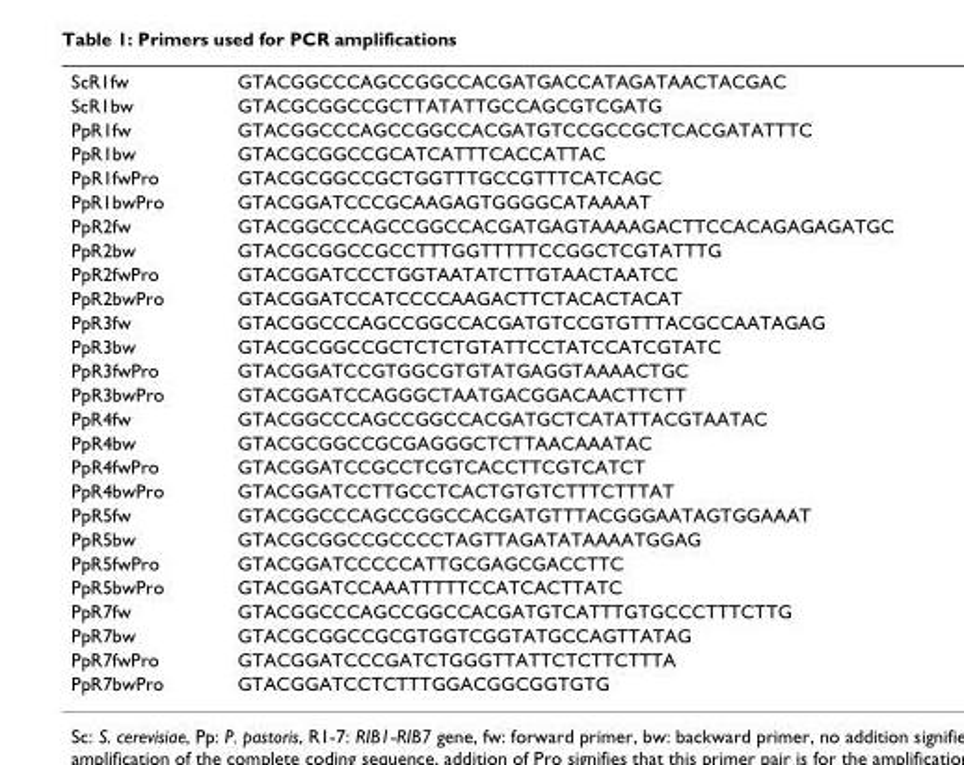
<table><tbody><tr><td>ScR1fw</td><td>GTACGGCCCAGCCGGCCACGATGACCATAGATAACTACGAC</td></tr><tr><td>ScR1bw</td><td>GTACGCGGCCGCTTATATTGCCAGCGTCGATG</td></tr><tr><td>PpR1fw</td><td>GTACGGCCCAGCCGGCCACGATGTCCGCCGCTCACGATATTTC</td></tr><tr><td>PpR1bw</td><td>GTACGCGGCCGCATCATTTCACCATTAC</td></tr><tr><td>PpR1fwPro</td><td>GTACGCGGCCGCTGGTTTGCCGTTTCATCAGC</td></tr><tr><td>PpR1bwPro</td><td>GTACGGATCCCGCAAGAGTGGGGCATAAAAT</td></tr><tr><td>PpR2fw</td><td>GTACGGCCCAGCCGGCCACGATGAGTAAAAGACTTCCACAGAGAGATGC</td></tr><tr><td>PpR2bw</td><td>GTACGCGGCCGCCTTTGGTTTTTCCGGCTCGTATTTG</td></tr><tr><td>PpR2fwPro</td><td>GTACGGATCCCTGGTAATATCTTGTAACTAATCC</td></tr><tr><td>PpR2bwPro</td><td>GTACGGATCCATCCCCAAGACTTCTACACTACAT</td></tr><tr><td>PpR3fw</td><td>GTACGGCCCAGCCGGCCACGATGTCCGTGTTTACGCCAATAGAG</td></tr><tr><td>PpR3bw</td><td>GTACGCGGCCGCTCTCTGTATTCCTATCCATCGTATC</td></tr><tr><td>PpR3fwPro</td><td>GTACGGATCCGTGGCGTGTATGAGGTAAAACTGC</td></tr><tr><td>PpR3bwPro</td><td>GTACGGATCCAGGGCTAATGACGGACAACTTCTT</td></tr><tr><td>PpR4fw</td><td>GTACGGCCCAGCCGGCCACGATGCTCATATTACGTAATAC</td></tr><tr><td>PpR4bw</td><td>GTACGCGGCCGCGAGGGCTCTTAACAAATAC</td></tr><tr><td>PpR4fwPro</td><td>GTACGGATCCGCCTCGTCACCTTCGTCATCT</td></tr><tr><td>PpR4bwPro</td><td>GTACGGATCCTTGCCTCACTGTGTCTTTCTTTAT</td></tr><tr><td>PpR5fw</td><td>GTACGGCCCAGCCGGCCACGATGTTTACGGGAATAGTGGAAAT</td></tr><tr><td>PpR5bw</td><td>GTACGCGGCCGCCCCTAGTTAGATATAAAATGGAG</td></tr><tr><td>PpR5fwPro</td><td>GTACGGATCCCCCATTGCGAGCGACCTTC</td></tr><tr><td>PpR5bwPro</td><td>GTACGGATCCAAATTTTTCCATCACTTATC</td></tr><tr><td>PpR7fw</td><td>GTACGGCCCAGCCGGCCACGATGTCATTTGTGCCCTTTCTTG</td></tr><tr><td>PpR7bw</td><td>GTACGCGGCCGCGTGGTCGGTATGCCAGTTATAG</td></tr><tr><td>PpR7fwPro</td><td>GTACGGATCCCGATCTGGGTTATTCTCTTCTTTA</td></tr><tr><td>PpR7bwPro</td><td>GTACGGATCCTCTTTGGACGGCGGTGTG</td></tr></tbody></table>